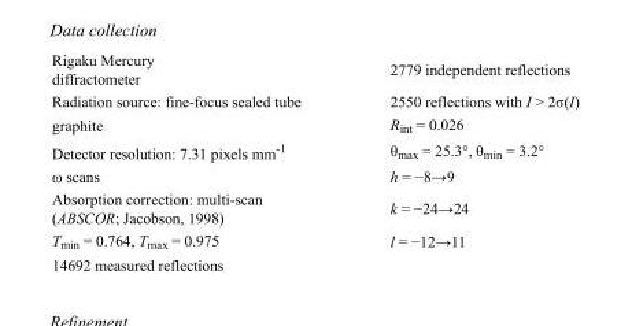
<table><tbody><tr><td>Rigaku Mercury diffractometer</td><td>2779 independent reflections</td></tr><tr><td>Radiation source: fine-focus sealed tube</td><td>2550 reflections with I &gt; 2σ(I)</td></tr><tr><td>graphite</td><td>R<sub>int</sub> = 0.026</td></tr><tr><td>Detector resolution: 7.31 pixels mm<sup>-1</sup></td><td>θ<sub>max</sub> = 25.3°, θ<sub>min</sub> = 3.2°</td></tr><tr><td>ω scans</td><td>h = −8→9</td></tr><tr><td>Absorption correction: multi-scan (ABSCOR; Jacobson, 1998)</td><td>k = −24→24</td></tr><tr><td>T<sub>min</sub> = 0.764, T<sub>max</sub> = 0.975</td><td>l = −12→11</td></tr><tr><td>14692 measured reflections</td><td></td></tr></tbody></table>